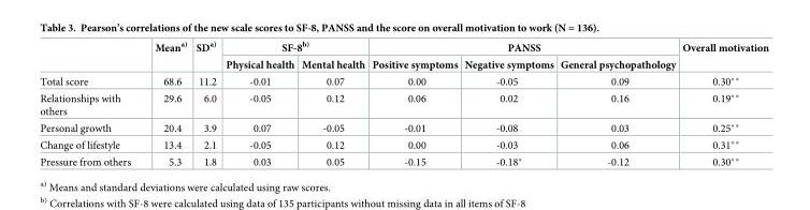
<table><thead><tr><td rowspan="2"></td><td rowspan="2">Mean<sup>a)</sup></td><td rowspan="2">SD<sup>a)</sup></td><td colspan="2">SF-8<sup>b)</sup></td><td colspan="3">PANSS</td><td rowspan="2">Overall motivation</td></tr><tr><td>Physical health</td><td>Mental health</td><td>Positive symptoms</td><td>Negative symptoms</td><td>General psychopathology</td></tr></thead><tbody><tr><td>Total score</td><td>68.6</td><td>11.2</td><td>-0.01</td><td>0.07</td><td>0.00</td><td>-0.05</td><td>0.09</td><td>0.30**</td></tr><tr><td>Relationships with others</td><td>29.6</td><td>6.0</td><td>-0.05</td><td>0.12</td><td>0.06</td><td>0.02</td><td>0.16</td><td>0.19**</td></tr><tr><td>Personal growth</td><td>20.4</td><td>3.9</td><td>0.07</td><td>-0.05</td><td>-0.01</td><td>-0.08</td><td>0.03</td><td>0.25**</td></tr><tr><td>Change of lifestyle</td><td>13.4</td><td>2.1</td><td>-0.05</td><td>0.12</td><td>0.00</td><td>-0.03</td><td>0.06</td><td>0.31**</td></tr><tr><td>Pressure from others</td><td>5.3</td><td>1.8</td><td>0.03</td><td>0.05</td><td>-0.15</td><td>-0.18*</td><td>-0.12</td><td>0.30**</td></tr></tbody></table>